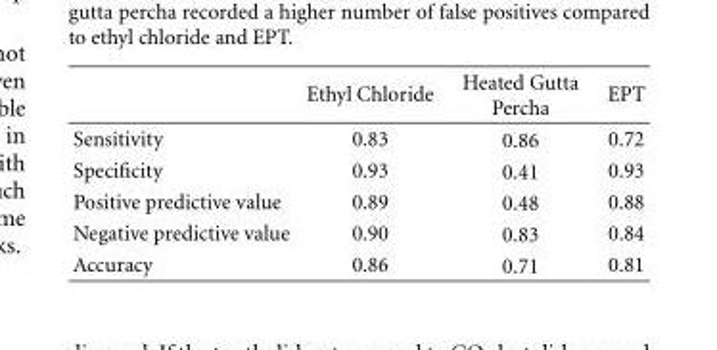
<table><thead><tr><td></td><td>Ethyl Chloride</td><td>Heated Gutta Percha</td><td>EPT</td></tr></thead><tbody><tr><td>Sensitivity</td><td>0.83</td><td>0.86</td><td>0.72</td></tr><tr><td>Specificity</td><td>0.93</td><td>0.41</td><td>0.93</td></tr><tr><td>Positive predictive value</td><td>0.89</td><td>0.48</td><td>0.88</td></tr><tr><td>Negative predictive value</td><td>0.90</td><td>0.83</td><td>0.84</td></tr><tr><td>Accuracy</td><td>0.86</td><td>0.71</td><td>0.81</td></tr></tbody></table>